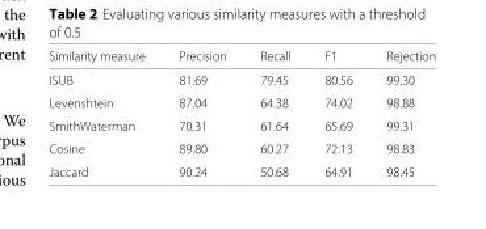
<table><thead><tr><td>Similarity measure</td><td>Precision</td><td>Recall</td><td>F1</td><td>Rejection</td></tr></thead><tbody><tr><td>ISUB</td><td>81.69</td><td>79.45</td><td>80.56</td><td>99.30</td></tr><tr><td>Levenshtein</td><td>87.04</td><td>64.38</td><td>74.02</td><td>98.88</td></tr><tr><td>SmithWaterman</td><td>70.31</td><td>61.64</td><td>65.69</td><td>99.31</td></tr><tr><td>Cosine</td><td>89.80</td><td>60.27</td><td>72.13</td><td>98.83</td></tr><tr><td>Jaccard</td><td>90.24</td><td>50.68</td><td>64.91</td><td>98.45</td></tr></tbody></table>